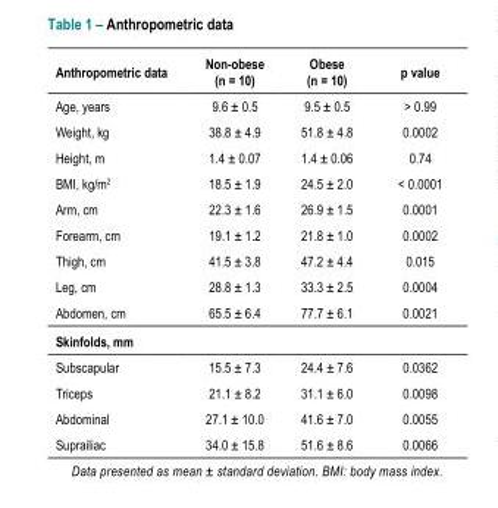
<table><thead><tr><td>Anthropometric data</td><td>Non-obese (n = 10)</td><td>Obese (n = 10)</td><td>p value</td></tr></thead><tbody><tr><td>Age, years</td><td>9.6 ± 0.5</td><td>9.5 ± 0.5</td><td>&gt; 0.99</td></tr><tr><td>Weight, kg</td><td>38.8 ± 4.9</td><td>51.8 ± 4.8</td><td>0.0002</td></tr><tr><td>Height, m</td><td>1.4 ± 0.07</td><td>1.4 ± 0.06</td><td>0.74</td></tr><tr><td>BMI, kg/m2</td><td>18.5 ± 1.9</td><td>24.5 ± 2.0</td><td>&lt; 0.0001</td></tr><tr><td>Arm, cm</td><td>22.3 ± 1.6</td><td>26.9 ± 1.5</td><td>0.0001</td></tr><tr><td>Forearm, cm</td><td>19.1 ± 1.2</td><td>21.8 ± 1.0</td><td>0.0002</td></tr><tr><td>Thigh, cm</td><td>41.5 ± 3.8</td><td>47.2 ± 4.4</td><td>0.015</td></tr><tr><td>Leg, cm</td><td>28.8 ± 1.3</td><td>33.3 ± 2.5</td><td>0.0004</td></tr><tr><td>Abdomen, cm</td><td>65.5 ± 6.4</td><td>77.7 ± 6.1</td><td>0.0021</td></tr><tr><td colspan="4">Skinfolds, mm</td></tr><tr><td>Subscapular</td><td>15.5 ± 7.3</td><td>24.4 ± 7.6</td><td>0.0362</td></tr><tr><td>Triceps</td><td>21.1 ± 8.2</td><td>31.1 ± 6.0</td><td>0.0098</td></tr><tr><td>Abdominal</td><td>27.1 ± 10.0</td><td>41.6 ± 7.0</td><td>0.0055</td></tr><tr><td>Suprailiac</td><td>34.0 ± 15.8</td><td>51.6 ± 8.6</td><td>0.0066</td></tr></tbody></table>